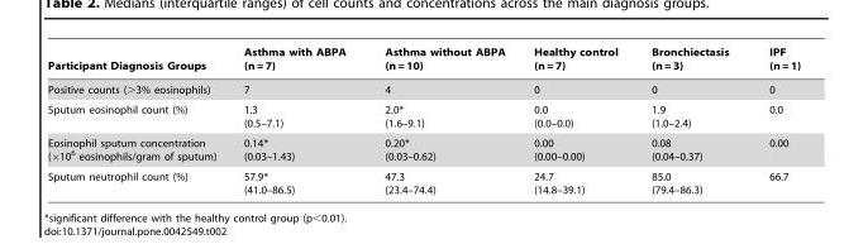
<table><thead><tr><td>Participant Diagnosis Groups</td><td>Asthma with ABPA (n = 7)</td><td>Asthma without ABPA (n = 10)</td><td>Healthy control (n = 7)</td><td>Bronchiectasis (n = 3)</td><td>IPF (n = 1)</td></tr></thead><tbody><tr><td>Positive counts (&gt;3% eosinophils)</td><td>7</td><td>4</td><td>0</td><td>0</td><td>0</td></tr><tr><td>Sputum eosinophil count (%)</td><td>1.3 (0.5–7.1)</td><td>2.0* (1.6–9.1)</td><td>0.0 (0.0–0.0)</td><td>1.9 (1.0–2.4)</td><td>0.0</td></tr><tr><td>Eosinophil sputum concentration (×10<sup>6</sup> eosinophils/gram of sputum)</td><td>0.14* (0.03–1.43)</td><td>0.20* (0.03–0.62)</td><td>0.00 (0.00–0.00)</td><td>0.08 (0.04–0.37)</td><td>0.00</td></tr><tr><td>Sputum neutrophil count (%)</td><td>57.9* (41.0–86.5)</td><td>47.3 (23.4–74.4)</td><td>24.7 (14.8–39.1)</td><td>85.0 (79.4–86.3)</td><td>66.7</td></tr></tbody></table>